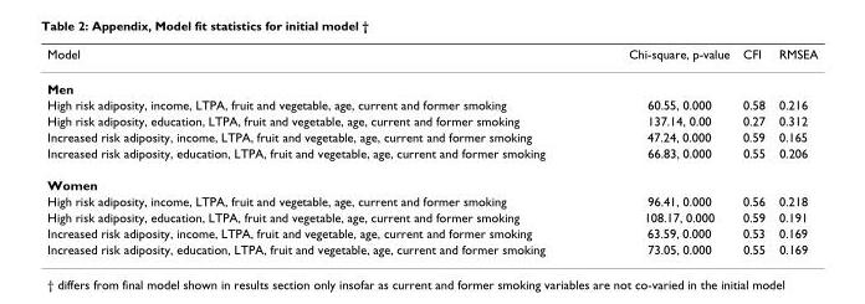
<table><thead><tr><td>Model</td><td>Chi-square, p-value</td><td>CFI</td><td>RMSEA</td></tr></thead><tbody><tr><td colspan="4">Men</td></tr><tr><td>High risk adiposity, income, LTPA, fruit and vegetable, age, current and former smoking</td><td>60.55, 0.000</td><td>0.58</td><td>0.216</td></tr><tr><td>High risk adiposity, education, LTPA, fruit and vegetable, age, current and former smoking</td><td>137.14, 0.00</td><td>0.27</td><td>0.312</td></tr><tr><td>Increased risk adiposity, income, LTPA, fruit and vegetable, age, current and former smoking</td><td>47.24, 0.000</td><td>0.59</td><td>0.165</td></tr><tr><td>Increased risk adiposity, education, LTPA, fruit and vegetable, age, current and former smoking</td><td>66.83, 0.000</td><td>0.55</td><td>0.206</td></tr><tr><td colspan="4">Women</td></tr><tr><td>High risk adiposity, income, LTPA, fruit and vegetable, age, current and former smoking</td><td>96.41, 0.000</td><td>0.56</td><td>0.218</td></tr><tr><td>High risk adiposity, education, LTPA, fruit and vegetable, age, current and former smoking</td><td>108.17, 0.000</td><td>0.59</td><td>0.191</td></tr><tr><td>Increased risk adiposity, income, LTPA, fruit and vegetable, age, current and former smoking</td><td>63.59, 0.000</td><td>0.53</td><td>0.169</td></tr><tr><td>Increased risk adiposity, education, LTPA, fruit and vegetable, age, current and former smoking</td><td>73.05, 0.000</td><td>0.55</td><td>0.169</td></tr></tbody></table>